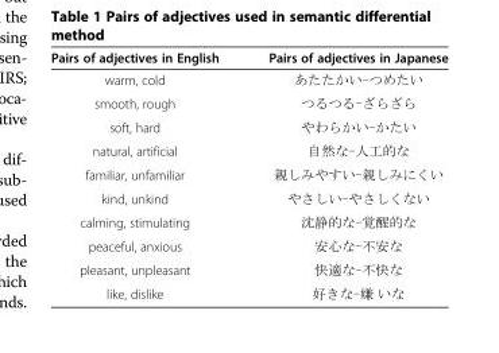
<table><thead><tr><td>Pairs of adjectives in English</td><td>Pairs of adjectives in Japanese</td></tr></thead><tbody><tr><td>warm, cold</td><td>あたたかい-つめたい</td></tr><tr><td>smooth, rough</td><td>つるつる-ざらざら</td></tr><tr><td>soft, hard</td><td>やわらかい-かたい</td></tr><tr><td>natural, artificial</td><td>自然な-人工的な</td></tr><tr><td>familiar, unfamiliar</td><td>親しみやすい-親しみにくい</td></tr><tr><td>kind, unkind</td><td>やさしい-やさしくない</td></tr><tr><td>calming, stimulating</td><td>沈静的な-覚醒的な</td></tr><tr><td>peaceful, anxious</td><td>安心な-不安な</td></tr><tr><td>pleasant, unpleasant</td><td>快適な-不快な</td></tr><tr><td>like, dislike</td><td>好きな-嫌 いな</td></tr></tbody></table>